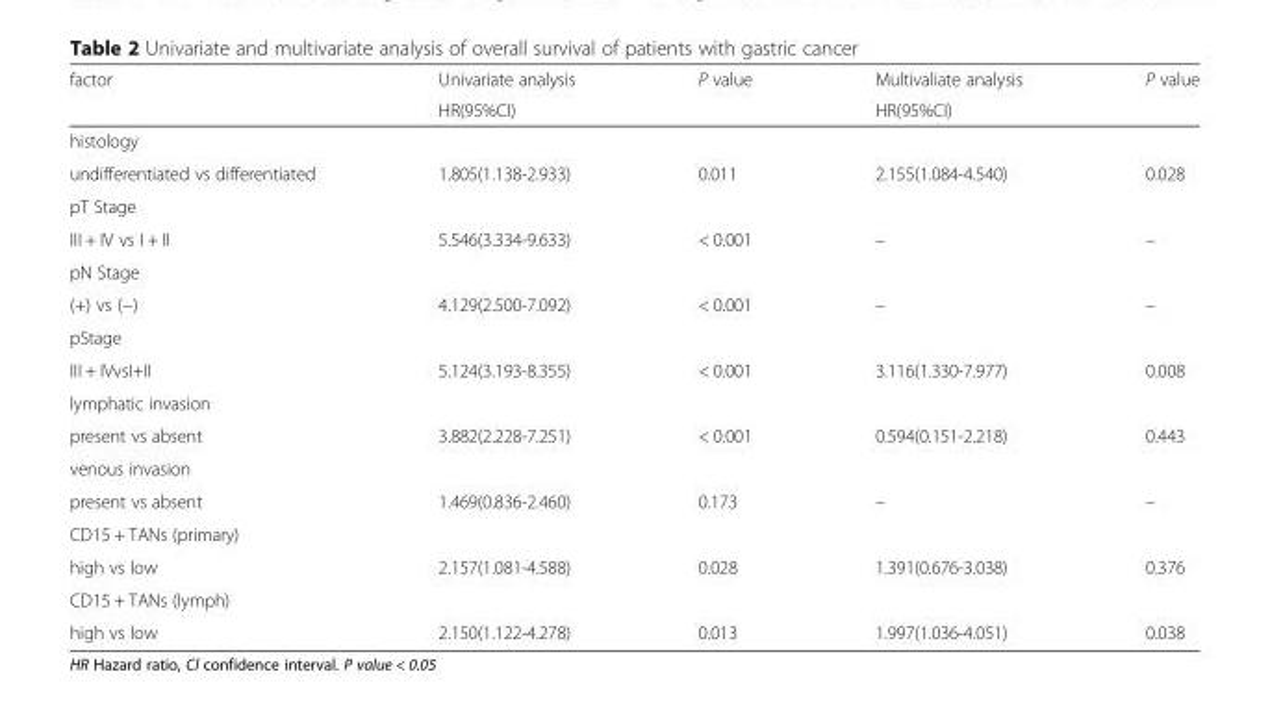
<table><thead><tr><td rowspan="2">factor</td><td rowspan="2">Univariate analysis HR(95%CI)</td><td rowspan="2">P value</td><td rowspan="2">Multivaliate analysis HR(95%CI)</td><td rowspan="2">P value</td></tr><tr></tr></thead><tbody><tr><td colspan="5">histology</td></tr><tr><td>undifferentiated vs differentiated</td><td>1.805(1.138-2.933)</td><td>0.011</td><td>2.155(1.084-4.540)</td><td>0.028</td></tr><tr><td colspan="5">pT Stage</td></tr><tr><td>III + IV vs I + II</td><td>5.546(3.334-9.633)</td><td>&lt; 0.001</td><td>–</td><td>–</td></tr><tr><td colspan="5">pN Stage</td></tr><tr><td>(+) vs (−)</td><td>4.129(2.500-7.092)</td><td>&lt; 0.001</td><td>–</td><td>–</td></tr><tr><td colspan="5">pStage</td></tr><tr><td>III + IVvsI+II</td><td>5.124(3.193-8.355)</td><td>&lt; 0.001</td><td>3.116(1.330-7.977)</td><td>0.008</td></tr><tr><td colspan="5">lymphatic invasion</td></tr><tr><td>present vs absent</td><td>3.882(2.228-7.251)</td><td>&lt; 0.001</td><td>0.594(0.151-2.218)</td><td>0.443</td></tr><tr><td colspan="5">venous invasion</td></tr><tr><td>present vs absent</td><td>1.469(0.836-2.460)</td><td>0.173</td><td>–</td><td>–</td></tr><tr><td colspan="5">CD15 + TANs (primary)</td></tr><tr><td>high vs low</td><td>2.157(1.081-4.588)</td><td>0.028</td><td>1.391(0.676-3.038)</td><td>0.376</td></tr><tr><td colspan="5">CD15 + TANs (lymph)</td></tr><tr><td>high vs low</td><td>2.150(1.122-4.278)</td><td>0.013</td><td>1.997(1.036-4.051)</td><td>0.038</td></tr></tbody></table>